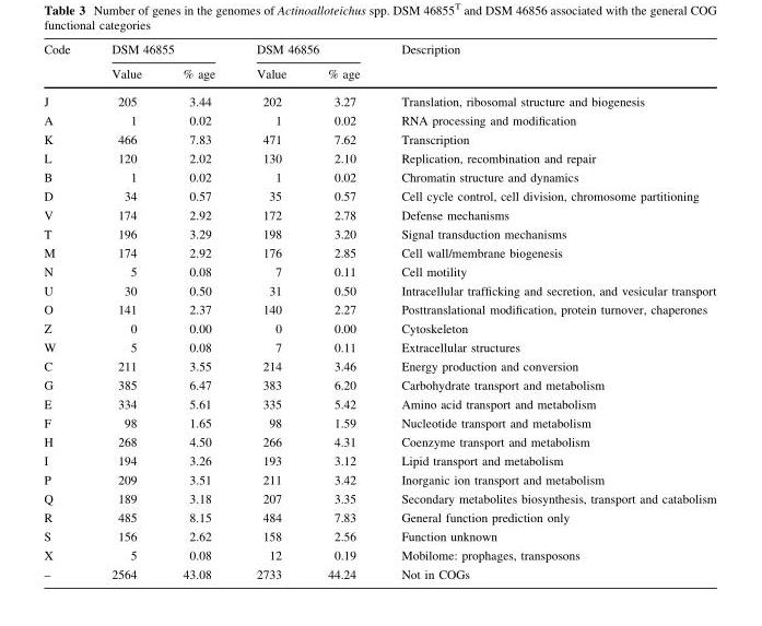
<table><thead><tr><td rowspan="2">Code</td><td colspan="2">DSM 46855</td><td colspan="2">DSM 46856</td><td rowspan="2">Description</td></tr><tr><td>Value</td><td>% age</td><td>Value</td><td>% age</td></tr></thead><tbody><tr><td>J</td><td>205</td><td>3.44</td><td>202</td><td>3.27</td><td>Translation, ribosomal structure and biogenesis</td></tr><tr><td>A</td><td>1</td><td>0.02</td><td>1</td><td>0.02</td><td>RNA processing and modification</td></tr><tr><td>K</td><td>466</td><td>7.83</td><td>471</td><td>7.62</td><td>Transcription</td></tr><tr><td>L</td><td>120</td><td>2.02</td><td>130</td><td>2.10</td><td>Replication, recombination and repair</td></tr><tr><td>B</td><td>1</td><td>0.02</td><td>1</td><td>0.02</td><td>Chromatin structure and dynamics</td></tr><tr><td>D</td><td>34</td><td>0.57</td><td>35</td><td>0.57</td><td>Cell cycle control, cell division, chromosome partitioning</td></tr><tr><td>V</td><td>174</td><td>2.92</td><td>172</td><td>2.78</td><td>Defense mechanisms</td></tr><tr><td>T</td><td>196</td><td>3.29</td><td>198</td><td>3.20</td><td>Signal transduction mechanisms</td></tr><tr><td>M</td><td>174</td><td>2.92</td><td>176</td><td>2.85</td><td>Cell wall/membrane biogenesis</td></tr><tr><td>N</td><td>5</td><td>0.08</td><td>7</td><td>0.11</td><td>Cell motility</td></tr><tr><td>U</td><td>30</td><td>0.50</td><td>31</td><td>0.50</td><td>Intracellular trafficking and secretion, and vesicular transport</td></tr><tr><td>O</td><td>141</td><td>2.37</td><td>140</td><td>2.27</td><td>Posttranslational modification, protein turnover, chaperones</td></tr><tr><td>Z</td><td>0</td><td>0.00</td><td>0</td><td>0.00</td><td>Cytoskeleton</td></tr><tr><td>W</td><td>5</td><td>0.08</td><td>7</td><td>0.11</td><td>Extracellular structures</td></tr><tr><td>C</td><td>211</td><td>3.55</td><td>214</td><td>3.46</td><td>Energy production and conversion</td></tr><tr><td>G</td><td>385</td><td>6.47</td><td>383</td><td>6.20</td><td>Carbohydrate transport and metabolism</td></tr><tr><td>E</td><td>334</td><td>5.61</td><td>335</td><td>5.42</td><td>Amino acid transport and metabolism</td></tr><tr><td>F</td><td>98</td><td>1.65</td><td>98</td><td>1.59</td><td>Nucleotide transport and metabolism</td></tr><tr><td>H</td><td>268</td><td>4.50</td><td>266</td><td>4.31</td><td>Coenzyme transport and metabolism</td></tr><tr><td>I</td><td>194</td><td>3.26</td><td>193</td><td>3.12</td><td>Lipid transport and metabolism</td></tr><tr><td>P</td><td>209</td><td>3.51</td><td>211</td><td>3.42</td><td>Inorganic ion transport and metabolism</td></tr><tr><td>Q</td><td>189</td><td>3.18</td><td>207</td><td>3.35</td><td>Secondary metabolites biosynthesis, transport and catabolism</td></tr><tr><td>R</td><td>485</td><td>8.15</td><td>484</td><td>7.83</td><td>General function prediction only</td></tr><tr><td>S</td><td>156</td><td>2.62</td><td>158</td><td>2.56</td><td>Function unknown</td></tr><tr><td>X</td><td>5</td><td>0.08</td><td>12</td><td>0.19</td><td>Mobilome: prophages, transposons</td></tr><tr><td>–</td><td>2564</td><td>43.08</td><td>2733</td><td>44.24</td><td>Not in COGs</td></tr></tbody></table>